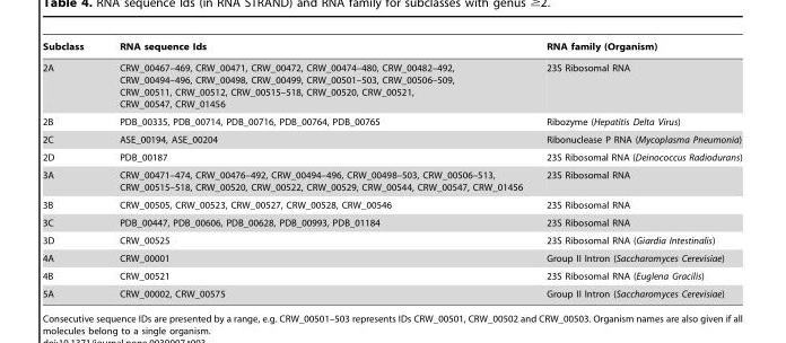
<table><thead><tr><td>Subclass</td><td>RNA sequence Ids</td><td>RNA family (Organism)</td></tr></thead><tbody><tr><td>2A</td><td>CRW_00467–469, CRW_00471, CRW_00472, CRW_00474–480, CRW_00482–492, CRW_00494–496, CRW_00498, CRW_00499, CRW_00501–503, CRW_00506–509, CRW_00511, CRW_00512, CRW_00515–518, CRW_00520, CRW_00521, CRW_00547, CRW_01456</td><td>23S Ribosomal RNA</td></tr><tr><td>2B</td><td>PDB_00335, PDB_00714, PDB_00716, PDB_00764, PDB_00765</td><td>Ribozyme (Hepatitis Delta Virus)</td></tr><tr><td>2C</td><td>ASE_00194, ASE_00204</td><td>Ribonuclease P RNA (Mycoplasma Pneumonia)</td></tr><tr><td>2D</td><td>PDB_00187</td><td>23S Ribosomal RNA (Deinococcus Radiodurans)</td></tr><tr><td>3A</td><td>CRW_00471–474, CRW_00476–492, CRW_00494–496, CRW_00498–503, CRW_00506–513, CRW_00515–518, CRW_00520, CRW_00522, CRW_00529, CRW_00544, CRW_00547, CRW_01456</td><td>23S Ribosomal RNA</td></tr><tr><td>3B</td><td>CRW_00505, CRW_00523, CRW_00527, CRW_00528, CRW_00546</td><td>23S Ribosomal RNA</td></tr><tr><td>3C</td><td>PDB_00447, PDB_00606, PDB_00628, PDB_00993, PDB_01184</td><td>23S Ribosomal RNA</td></tr><tr><td>3D</td><td>CRW_00525</td><td>23S Ribosomal RNA (Giardia Intestinalis)</td></tr><tr><td>4A</td><td>CRW_00001</td><td>Group II Intron (Saccharomyces Cerevisiae)</td></tr><tr><td>4B</td><td>CRW_00521</td><td>23S Ribosomal RNA (Euglena Gracilis)</td></tr><tr><td>5A</td><td>CRW_00002, CRW_00575</td><td>Group II Intron (Saccharomyces Cerevisiae)</td></tr></tbody></table>